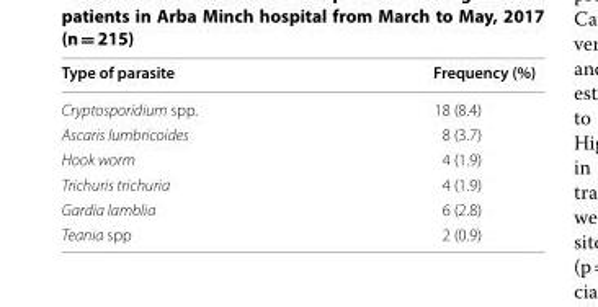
<table><thead><tr><td>Type of parasite</td><td>Frequency (%)</td></tr></thead><tbody><tr><td>Cryptosporidium spp.</td><td>18 (8.4)</td></tr><tr><td>Ascaris lumbricoides</td><td>8 (3.7)</td></tr><tr><td>Hook worm</td><td>4 (1.9)</td></tr><tr><td>Trichuris trichuria</td><td>4 (1.9)</td></tr><tr><td>Gardia lamblia</td><td>6 (2.8)</td></tr><tr><td>Teania spp</td><td>2 (0.9)</td></tr></tbody></table>